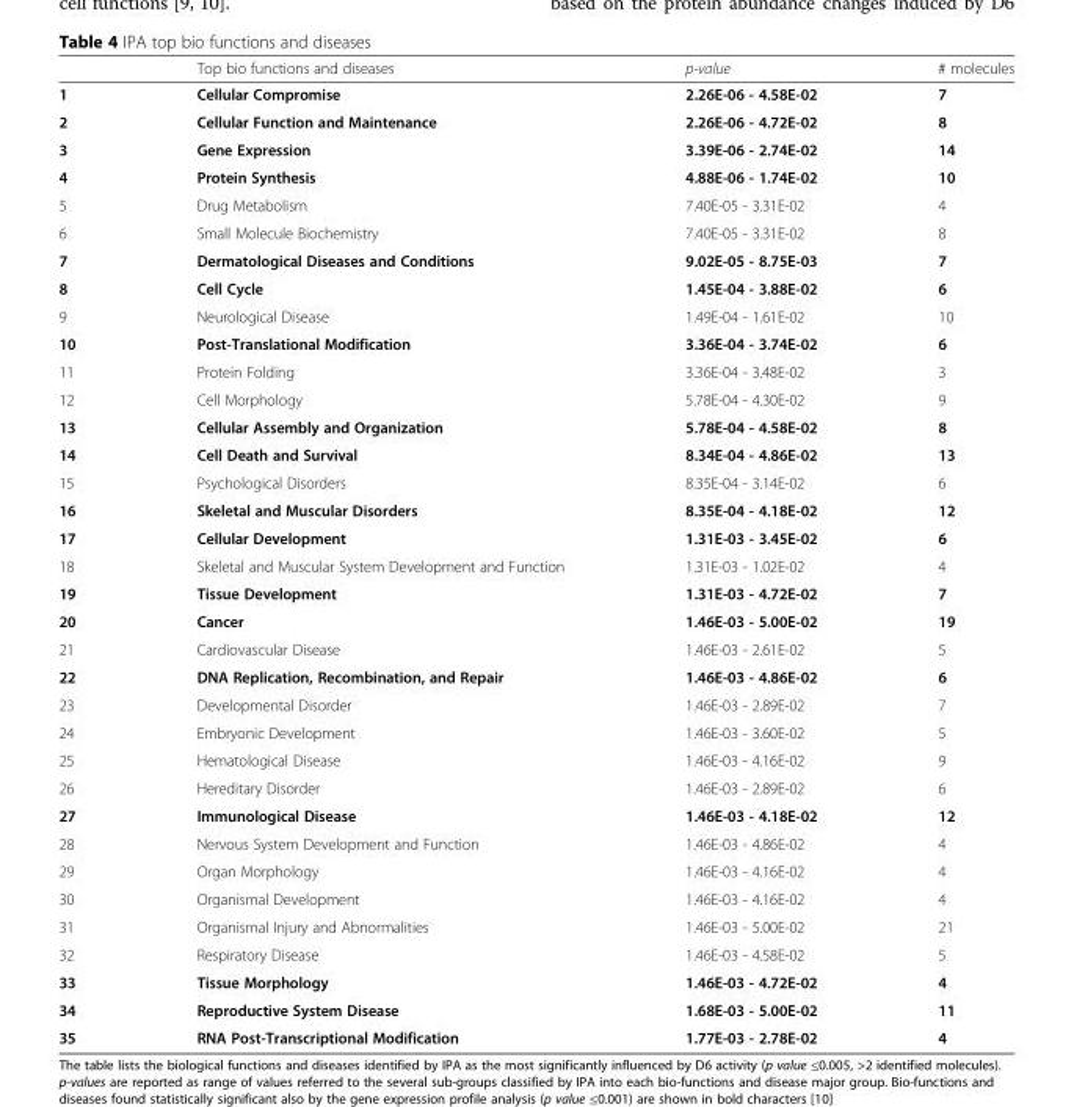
<table><thead><tr><td></td><td>Top bio functions and diseases</td><td>p-value</td><td># molecules</td></tr></thead><tbody><tr><td>1</td><td>Cellular Compromise</td><td>2.26E-06 - 4.58E-02</td><td>7</td></tr><tr><td>2</td><td>Cellular Function and Maintenance</td><td>2.26E-06 - 4.72E-02</td><td>8</td></tr><tr><td>3</td><td>Gene Expression</td><td>3.39E-06 - 2.74E-02</td><td>14</td></tr><tr><td>4</td><td>Protein Synthesis</td><td>4.88E-06 - 1.74E-02</td><td>10</td></tr><tr><td>5</td><td>Drug Metabolism</td><td>7.40E-05 - 3.31E-02</td><td>4</td></tr><tr><td>6</td><td>Small Molecule Biochemistry</td><td>7.40E-05 - 3.31E-02</td><td>8</td></tr><tr><td>7</td><td>Dermatological Diseases and Conditions</td><td>9.02E-05 - 8.75E-03</td><td>7</td></tr><tr><td>8</td><td>Cell Cycle</td><td>1.45E-04 - 3.88E-02</td><td>6</td></tr><tr><td>9</td><td>Neurological Disease</td><td>1.49E-04 - 1.61E-02</td><td>10</td></tr><tr><td>10</td><td>Post-Translational Modification</td><td>3.36E-04 - 3.74E-02</td><td>6</td></tr><tr><td>11</td><td>Protein Folding</td><td>3.36E-04 - 3.48E-02</td><td>3</td></tr><tr><td>12</td><td>Cell Morphology</td><td>5.78E-04 - 4.30E-02</td><td>9</td></tr><tr><td>13</td><td>Cellular Assembly and Organization</td><td>5.78E-04 - 4.58E-02</td><td>8</td></tr><tr><td>14</td><td>Cell Death and Survival</td><td>8.34E-04 - 4.86E-02</td><td>13</td></tr><tr><td>15</td><td>Psychological Disorders</td><td>8.35E-04 - 3.14E-02</td><td>6</td></tr><tr><td>16</td><td>Skeletal and Muscular Disorders</td><td>8.35E-04 - 4.18E-02</td><td>12</td></tr><tr><td>17</td><td>Cellular Development</td><td>1.31E-03 - 3.45E-02</td><td>6</td></tr><tr><td>18</td><td>Skeletal and Muscular System Development and Function</td><td>1.31E-03 - 1.02E-02</td><td>4</td></tr><tr><td>19</td><td>Tissue Development</td><td>1.31E-03 - 4.72E-02</td><td>7</td></tr><tr><td>20</td><td>Cancer</td><td>1.46E-03 - 5.00E-02</td><td>19</td></tr><tr><td>21</td><td>Cardiovascular Disease</td><td>1.46E-03 - 2.61E-02</td><td>5</td></tr><tr><td>22</td><td>DNA Replication, Recombination, and Repair</td><td>1.46E-03 - 4.86E-02</td><td>6</td></tr><tr><td>23</td><td>Developmental Disorder</td><td>1.46E-03 - 2.89E-02</td><td>7</td></tr><tr><td>24</td><td>Embryonic Development</td><td>1.46E-03 - 3.60E-02</td><td>5</td></tr><tr><td>25</td><td>Hematological Disease</td><td>1.46E-03 - 4.16E-02</td><td>9</td></tr><tr><td>26</td><td>Hereditary Disorder</td><td>1.46E-03 - 2.89E-02</td><td>6</td></tr><tr><td>27</td><td>Immunological Disease</td><td>1.46E-03 - 4.18E-02</td><td>12</td></tr><tr><td>28</td><td>Nervous System Development and Function</td><td>1.46E-03 - 4.86E-02</td><td>4</td></tr><tr><td>29</td><td>Organ Morphology</td><td>1.46E-03 - 4.16E-02</td><td>4</td></tr><tr><td>30</td><td>Organismal Development</td><td>1.46E-03 - 4.16E-02</td><td>4</td></tr><tr><td>31</td><td>Organismal Injury and Abnormalities</td><td>1.46E-03 - 5.00E-02</td><td>21</td></tr><tr><td>32</td><td>Respiratory Disease</td><td>1.46E-03 - 4.58E-02</td><td>5</td></tr><tr><td>33</td><td>Tissue Morphology</td><td>1.46E-03 - 4.72E-02</td><td>4</td></tr><tr><td>34</td><td>Reproductive System Disease</td><td>1.68E-03 - 5.00E-02</td><td>11</td></tr><tr><td>35</td><td>RNA Post-Transcriptional Modification</td><td>1.77E-03 - 2.78E-02</td><td>4</td></tr></tbody></table>